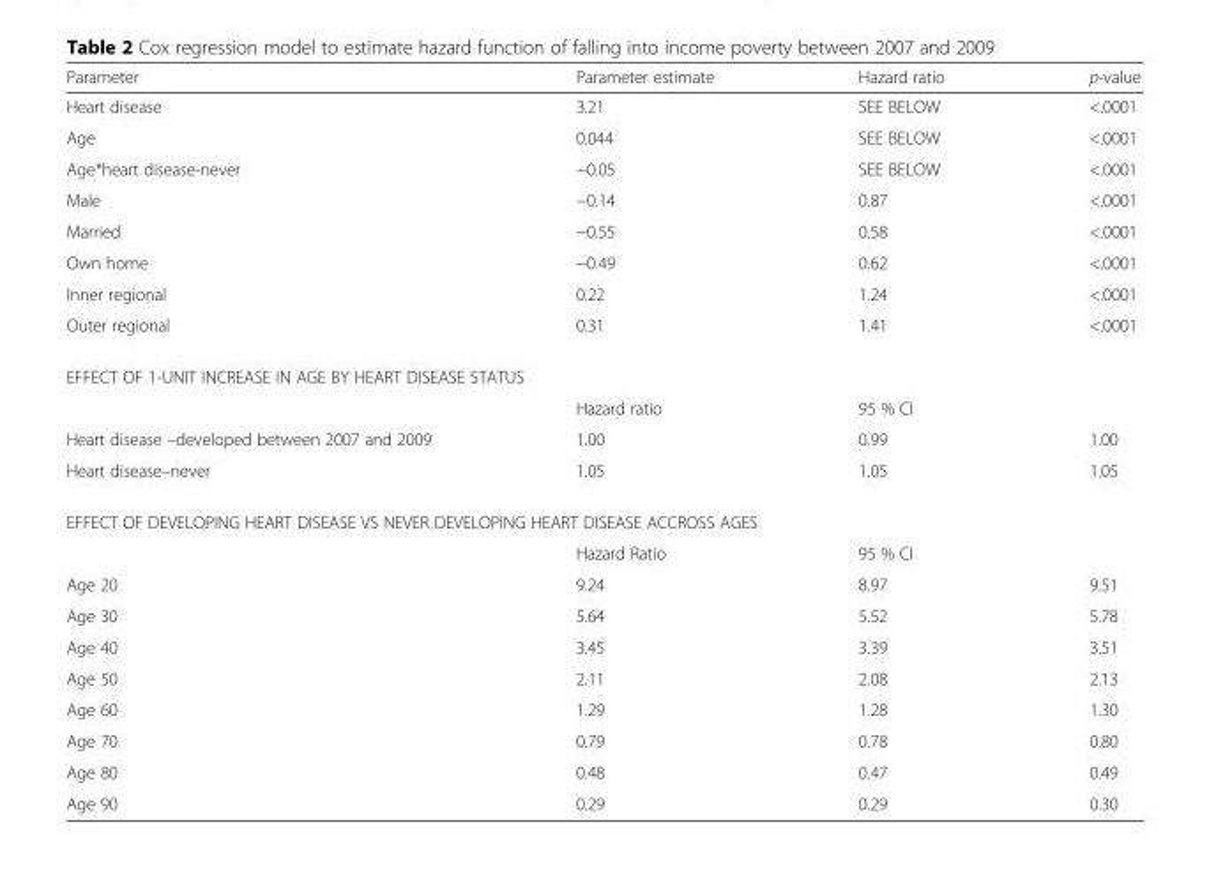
<table><thead><tr><td>Parameter</td><td>Parameter estimate</td><td>Hazard ratio</td><td>p-value</td></tr></thead><tbody><tr><td>Heart disease</td><td>3.21</td><td>SEE BELOW</td><td>&lt;.0001</td></tr><tr><td>Age</td><td>0.044</td><td>SEE BELOW</td><td>&lt;.0001</td></tr><tr><td>Age*heart disease-never</td><td>−0.05</td><td>SEE BELOW</td><td>&lt;.0001</td></tr><tr><td>Male</td><td>−0.14</td><td>0.87</td><td>&lt;.0001</td></tr><tr><td>Married</td><td>−0.55</td><td>0.58</td><td>&lt;.0001</td></tr><tr><td>Own home</td><td>−0.49</td><td>0.62</td><td>&lt;.0001</td></tr><tr><td>Inner regional</td><td>0.22</td><td>1.24</td><td>&lt;.0001</td></tr><tr><td>Outer regional</td><td>0.31</td><td>1.41</td><td>&lt;.0001</td></tr><tr><td colspan="4">EFFECT OF 1-UNIT INCREASE IN AGE BY HEART DISEASE STATUS</td></tr><tr><td></td><td>Hazard ratio</td><td colspan="2">95 % CI</td></tr><tr><td>Heart disease –developed between 2007 and 2009</td><td>1.00</td><td>0.99</td><td>1.00</td></tr><tr><td>Heart disease–never</td><td>1.05</td><td>1.05</td><td>1.05</td></tr><tr><td colspan="4">EFFECT OF DEVELOPING HEART DISEASE VS NEVER DEVELOPING HEART DISEASE ACCROSS AGES</td></tr><tr><td></td><td>Hazard Ratio</td><td colspan="2">95 % CI</td></tr><tr><td>Age 20</td><td>9.24</td><td>8.97</td><td>9.51</td></tr><tr><td>Age 30</td><td>5.64</td><td>5.52</td><td>5.78</td></tr><tr><td>Age 40</td><td>3.45</td><td>3.39</td><td>3.51</td></tr><tr><td>Age 50</td><td>2.11</td><td>2.08</td><td>2.13</td></tr><tr><td>Age 60</td><td>1.29</td><td>1.28</td><td>1.30</td></tr><tr><td>Age 70</td><td>0.79</td><td>0.78</td><td>0.80</td></tr><tr><td>Age 80</td><td>0.48</td><td>0.47</td><td>0.49</td></tr><tr><td>Age 90</td><td>0.29</td><td>0.29</td><td>0.30</td></tr></tbody></table>